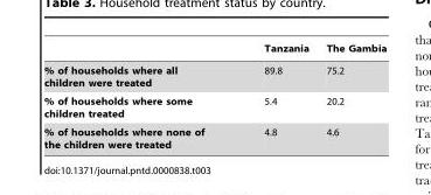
<table><thead><tr><td></td><td>Tanzania</td><td>The Gambia</td></tr></thead><tbody><tr><td>% of households where all children were treated</td><td>89.8</td><td>75.2</td></tr><tr><td>% of households where some children treated</td><td>5.4</td><td>20.2</td></tr><tr><td>% of households where none of the children were treated</td><td>4.8</td><td>4.6</td></tr></tbody></table>